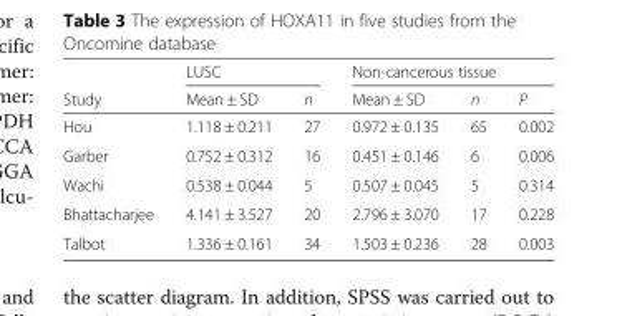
<table><thead><tr><td rowspan="2">Study</td><td colspan="2">LUSC</td><td colspan="3">Non-cancerous tissue</td></tr><tr><td>Mean ± SD</td><td>n</td><td>Mean ± SD</td><td>n</td><td>P</td></tr></thead><tbody><tr><td>Hou</td><td>1.118 ± 0.211</td><td>27</td><td>0.972 ± 0.135</td><td>65</td><td>0.002</td></tr><tr><td>Garber</td><td>0.752 ± 0.312</td><td>16</td><td>0.451 ± 0.146</td><td>6</td><td>0.006</td></tr><tr><td>Wachi</td><td>0.538 ± 0.044</td><td>5</td><td>0.507 ± 0.045</td><td>5</td><td>0.314</td></tr><tr><td>Bhattacharjee</td><td>4.141 ± 3.527</td><td>20</td><td>2.796 ± 3.070</td><td>17</td><td>0.228</td></tr><tr><td>Talbot</td><td>1.336 ± 0.161</td><td>34</td><td>1.503 ± 0.236</td><td>28</td><td>0.003</td></tr></tbody></table>